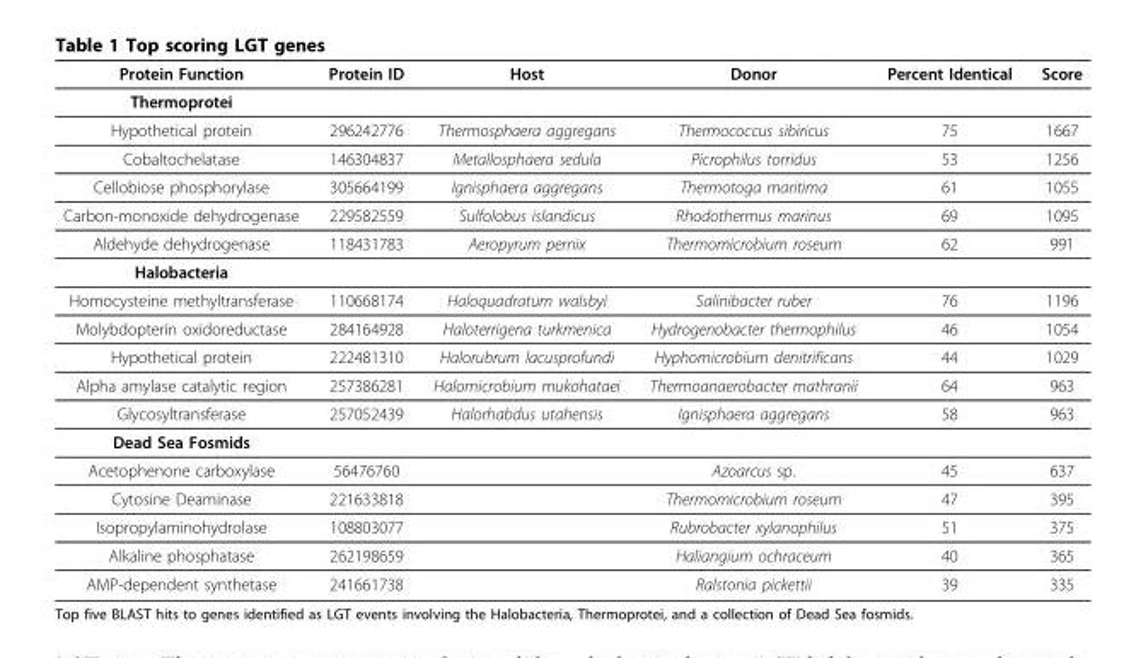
<table><thead><tr><td>Protein Function</td><td>Protein ID</td><td>Host</td><td>Donor</td><td>Percent Identical</td><td>Score</td></tr></thead><tbody><tr><td colspan="6">Thermoprotei</td></tr><tr><td>Hypothetical protein</td><td>296242776</td><td>Thermosphaera aggregans</td><td>Thermococcus sibiricus</td><td>75</td><td>1667</td></tr><tr><td>Cobaltochelatase</td><td>146304837</td><td>Metallosphaera sedula</td><td>Picrophilus torridus</td><td>53</td><td>1256</td></tr><tr><td>Cellobiose phosphorylase</td><td>305664199</td><td>Ignisphaera aggregans</td><td>Thermotoga maritima</td><td>61</td><td>1055</td></tr><tr><td>Carbon-monoxide dehydrogenase</td><td>229582559</td><td>Sulfolobus islandicus</td><td>Rhodothermus marinus</td><td>69</td><td>1095</td></tr><tr><td>Aldehyde dehydrogenase</td><td>118431783</td><td>Aeropyrum pernix</td><td>Thermomicrobium roseum</td><td>62</td><td>991</td></tr><tr><td colspan="6">Halobacteria</td></tr><tr><td>Homocysteine methyltransferase</td><td>110668174</td><td>Haloquadratum walsbyi</td><td>Salinibacter ruber</td><td>76</td><td>1196</td></tr><tr><td>Molybdopterin oxidoreductase</td><td>284164928</td><td>Haloterrigena turkmenica</td><td>Hydrogenobacter thermophilus</td><td>46</td><td>1054</td></tr><tr><td>Hypothetical protein</td><td>222481310</td><td>Halorubrum lacusprofundi</td><td>Hyphomicrobium denitrificans</td><td>44</td><td>1029</td></tr><tr><td>Alpha amylase catalytic region</td><td>257386281</td><td>Halomicrobium mukohataei</td><td>Thermoanaerobacter mathranii</td><td>64</td><td>963</td></tr><tr><td>Glycosyltransferase</td><td>257052439</td><td>Halorhabdus utahensis</td><td>Ignisphaera aggregans</td><td>58</td><td>963</td></tr><tr><td colspan="6">Dead Sea Fosmids</td></tr><tr><td>Acetophenone carboxylase</td><td>56476760</td><td></td><td>Azoarcus sp.</td><td>45</td><td>637</td></tr><tr><td>Cytosine Deaminase</td><td>221633818</td><td></td><td>Thermomicrobium roseum</td><td>47</td><td>395</td></tr><tr><td>Isopropylaminohydrolase</td><td>108803077</td><td></td><td>Rubrobacter xylanophilus</td><td>51</td><td>375</td></tr><tr><td>Alkaline phosphatase</td><td>262198659</td><td></td><td>Haliangium ochraceum</td><td>40</td><td>365</td></tr><tr><td>AMP-dependent synthetase</td><td>241661738</td><td></td><td>Ralstonia pickettii</td><td>39</td><td>335</td></tr></tbody></table>